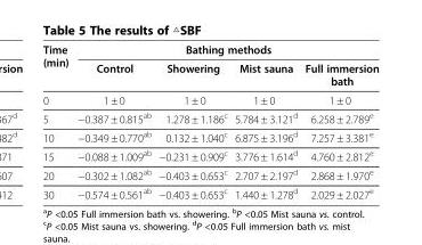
<table><thead><tr><td rowspan="2">Time (min)</td><td colspan="4">Bathing methods</td></tr><tr><td>Control</td><td>Showering</td><td>Mist sauna</td><td>Full immersion bath</td></tr></thead><tbody><tr><td>0</td><td>1 ± 0</td><td>1 ± 0</td><td>1 ± 0</td><td>1 ± 0</td></tr><tr><td>5</td><td>−0.387 ± 0.815<sup>ab</sup></td><td>1.278 ± 1.186<sup>c</sup></td><td>5.784 ± 3.121<sup>d</sup></td><td>6.258 ± 2.789<sup>e</sup></td></tr><tr><td>10</td><td>−0.349 ± 0.770<sup>ab</sup></td><td>0.132 ± 1.040<sup>c</sup></td><td>6.875 ± 3.196<sup>d</sup></td><td>7.257 ± 3.381<sup>e</sup></td></tr><tr><td>15</td><td>−0.088 ± 1.009<sup>ab</sup></td><td>−0.231 ± 0.909<sup>c</sup></td><td>3.776 ± 1.614<sup>d</sup></td><td>4.760 ± 2.812<sup>e</sup></td></tr><tr><td>20</td><td>−0.302 ± 1.082<sup>ab</sup></td><td>−0.403 ± 0.653<sup>c</sup></td><td>2.707 ± 2.197<sup>d</sup></td><td>2.868 ± 1.970<sup>e</sup></td></tr><tr><td>30</td><td>−0.574 ± 0.561<sup>ab</sup></td><td>−0.403 ± 0.653<sup>c</sup></td><td>1.440 ± 1.278<sup>d</sup></td><td>2.029 ± 2.027<sup>e</sup></td></tr></tbody></table>